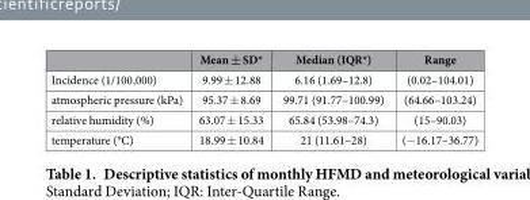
<table><thead><tr><td></td><td>Mean ± SD*</td><td>Median (IQR*)</td><td>Range</td></tr></thead><tbody><tr><td>Incidence (1/100,000)</td><td>9.99 ± 12.88</td><td>6.16 (1.69–12.8)</td><td>(0.02–104.01)</td></tr><tr><td>atmospheric pressure (kPa)</td><td>95.37 ± 8.69</td><td>99.71 (91.77–100.99)</td><td>(64.66–103.24)</td></tr><tr><td>relative humidity (%)</td><td>63.07 ± 15.33</td><td>65.84 (53.98–74.3)</td><td>(15–90.03)</td></tr><tr><td>temperature (°C)</td><td>18.99 ± 10.84</td><td>21 (11.61–28)</td><td>(− 16.17–36.77)</td></tr></tbody></table>